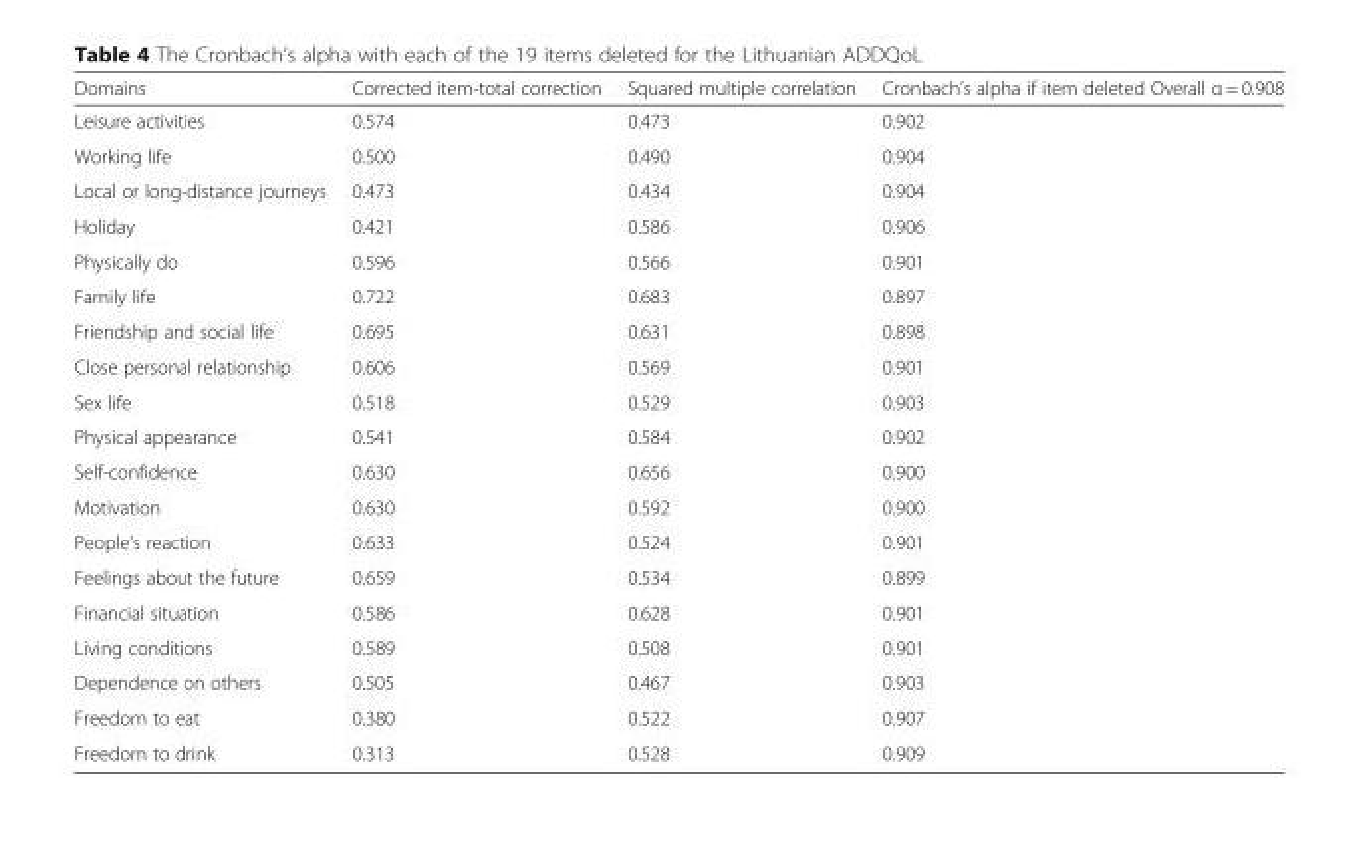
<table><thead><tr><td>Domains</td><td>Corrected item-total correction</td><td>Squared multiple correlation</td><td>Cronbach’s alpha if item deleted Overall α = 0.908</td></tr></thead><tbody><tr><td>Leisure activities</td><td>0.574</td><td>0.473</td><td>0.902</td></tr><tr><td>Working life</td><td>0.500</td><td>0.490</td><td>0.904</td></tr><tr><td>Local or long-distance journeys</td><td>0.473</td><td>0.434</td><td>0.904</td></tr><tr><td>Holiday</td><td>0.421</td><td>0.586</td><td>0.906</td></tr><tr><td>Physically do</td><td>0.596</td><td>0.566</td><td>0.901</td></tr><tr><td>Family life</td><td>0.722</td><td>0.683</td><td>0.897</td></tr><tr><td>Friendship and social life</td><td>0.695</td><td>0.631</td><td>0.898</td></tr><tr><td>Close personal relationship</td><td>0.606</td><td>0.569</td><td>0.901</td></tr><tr><td>Sex life</td><td>0.518</td><td>0.529</td><td>0.903</td></tr><tr><td>Physical appearance</td><td>0.541</td><td>0.584</td><td>0.902</td></tr><tr><td>Self-confidence</td><td>0.630</td><td>0.656</td><td>0.900</td></tr><tr><td>Motivation</td><td>0.630</td><td>0.592</td><td>0.900</td></tr><tr><td>People’s reaction</td><td>0.633</td><td>0.524</td><td>0.901</td></tr><tr><td>Feelings about the future</td><td>0.659</td><td>0.534</td><td>0.899</td></tr><tr><td>Financial situation</td><td>0.586</td><td>0.628</td><td>0.901</td></tr><tr><td>Living conditions</td><td>0.589</td><td>0.508</td><td>0.901</td></tr><tr><td>Dependence on others</td><td>0.505</td><td>0.467</td><td>0.903</td></tr><tr><td>Freedom to eat</td><td>0.380</td><td>0.522</td><td>0.907</td></tr><tr><td>Freedom to drink</td><td>0.313</td><td>0.528</td><td>0.909</td></tr></tbody></table>